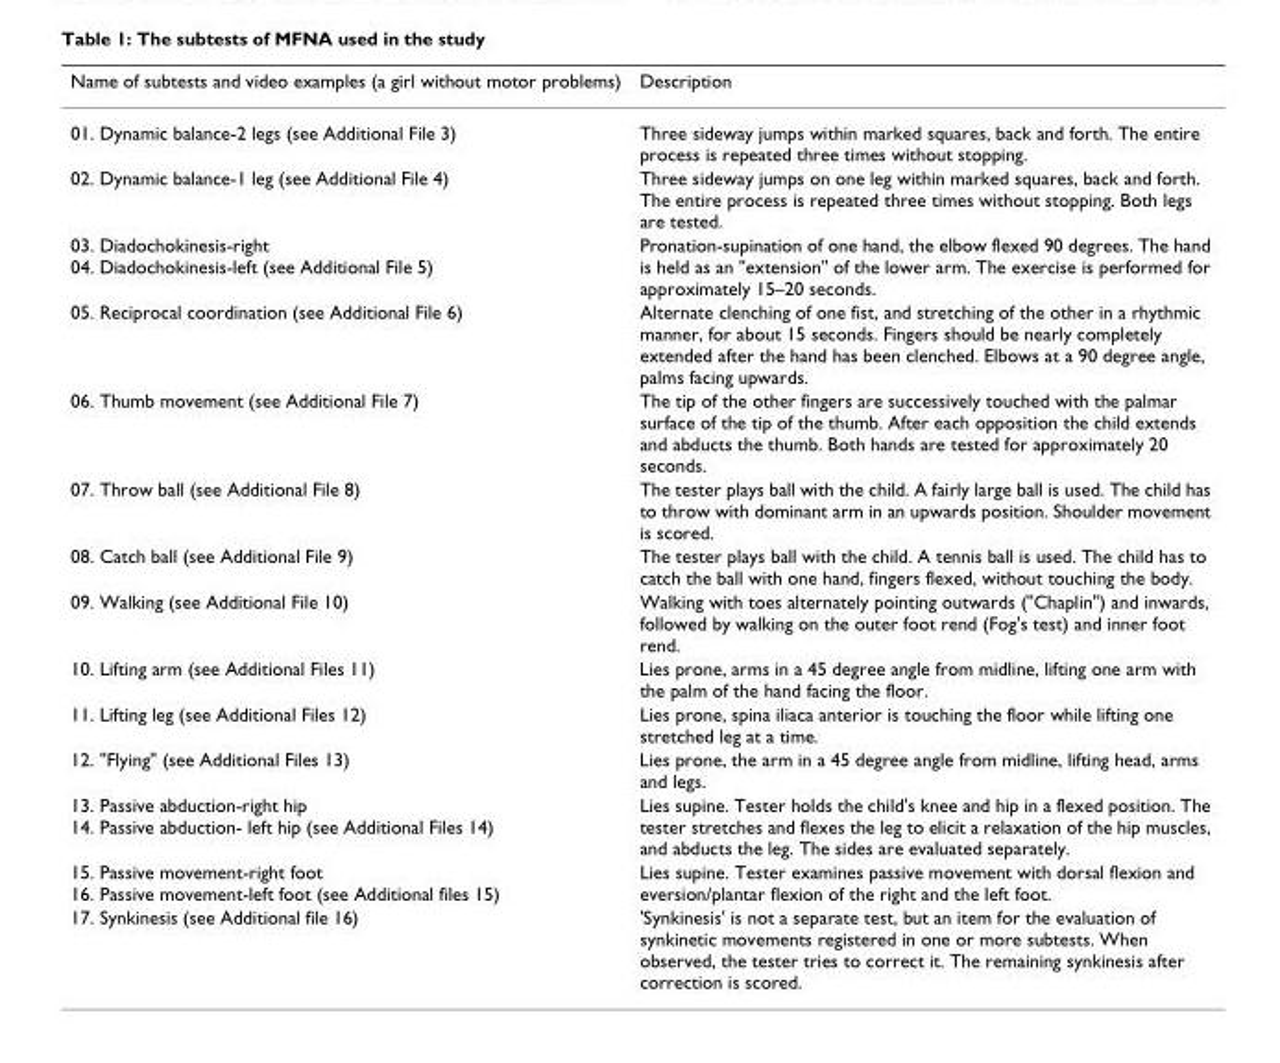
<table><thead><tr><td>Name of subtests and video examples (a girl without motor problems)</td><td>Description</td></tr></thead><tbody><tr><td>01. Dynamic balance-2 legs (see Additional File 3)</td><td>Three sideway jumps within marked squares, back and forth. The entire process is repeated three times without stopping.</td></tr><tr><td>02. Dynamic balance-1 leg (see Additional File 4)</td><td>Three sideway jumps on one leg within marked squares, back and forth. The entire process is repeated three times without stopping. Both legs are tested.</td></tr><tr><td>03. Diadochokinesis-right 04. Diadochokinesis-left (see Additional File 5)</td><td>Pronation-supination of one hand, the elbow flexed 90 degrees. The hand is held as an &quot;extension&quot; of the lower arm. The exercise is performed for approximately 15–20 seconds.</td></tr><tr><td>05. Reciprocal coordination (see Additional File 6)</td><td>Alternate clenching of one fist, and stretching of the other in a rhythmic manner, for about 15 seconds. Fingers should be nearly completely extended after the hand has been clenched. Elbows at a 90 degree angle, palms facing upwards.</td></tr><tr><td>06. Thumb movement (see Additional File 7)</td><td>The tip of the other fingers are successively touched with the palmar surface of the tip of the thumb. After each opposition the child extends and abducts the thumb. Both hands are tested for approximately 20 seconds.</td></tr><tr><td>07. Throw ball (see Additional File 8)</td><td>The tester plays ball with the child. A fairly large ball is used. The child has to throw with dominant arm in an upwards position. Shoulder movement is scored.</td></tr><tr><td>08. Catch ball (see Additional File 9)</td><td>The tester plays ball with the child. A tennis ball is used. The child has to catch the ball with one hand, fingers flexed, without touching the body.</td></tr><tr><td>09. Walking (see Additional File 10)</td><td>Walking with toes alternately pointing outwards (&quot;Chaplin&quot;) and inwards, followed by walking on the outer foot rend (Fog&#x27;s test) and inner foot rend.</td></tr><tr><td>10. Lifting arm (see Additional Files 11)</td><td>Lies prone, arms in a 45 degree angle from midline, lifting one arm with the palm of the hand facing the floor.</td></tr><tr><td>11. Lifting leg (see Additional Files 12)</td><td>Lies prone, spina iliaca anterior is touching the floor while lifting one stretched leg at a time.</td></tr><tr><td>12. &quot;Flying&quot; (see Additional Files 13)</td><td>Lies prone, the arm in a 45 degree angle from midline, lifting head, arms and legs.</td></tr><tr><td>13. Passive abduction-right hip 14. Passive abduction- left hip (see Additional Files 14)</td><td>Lies supine. Tester holds the child&#x27;s knee and hip in a flexed position. The tester stretches and flexes the leg to elicit a relaxation of the hip muscles, and abducts the leg. The sides are evaluated separately.</td></tr><tr><td>15. Passive movement-right foot 16. Passive movement-left foot (see Additional files 15)</td><td>Lies supine. Tester examines passive movement with dorsal flexion and eversion/plantar flexion of the right and the left foot.</td></tr><tr><td>17. Synkinesis (see Additional file 16)</td><td>&#x27;Synkinesis&#x27; is not a separate test, but an item for the evaluation of synkinetic movements registered in one or more subtests. When observed, the tester tries to correct it. The remaining synkinesis after correction is scored.</td></tr></tbody></table>